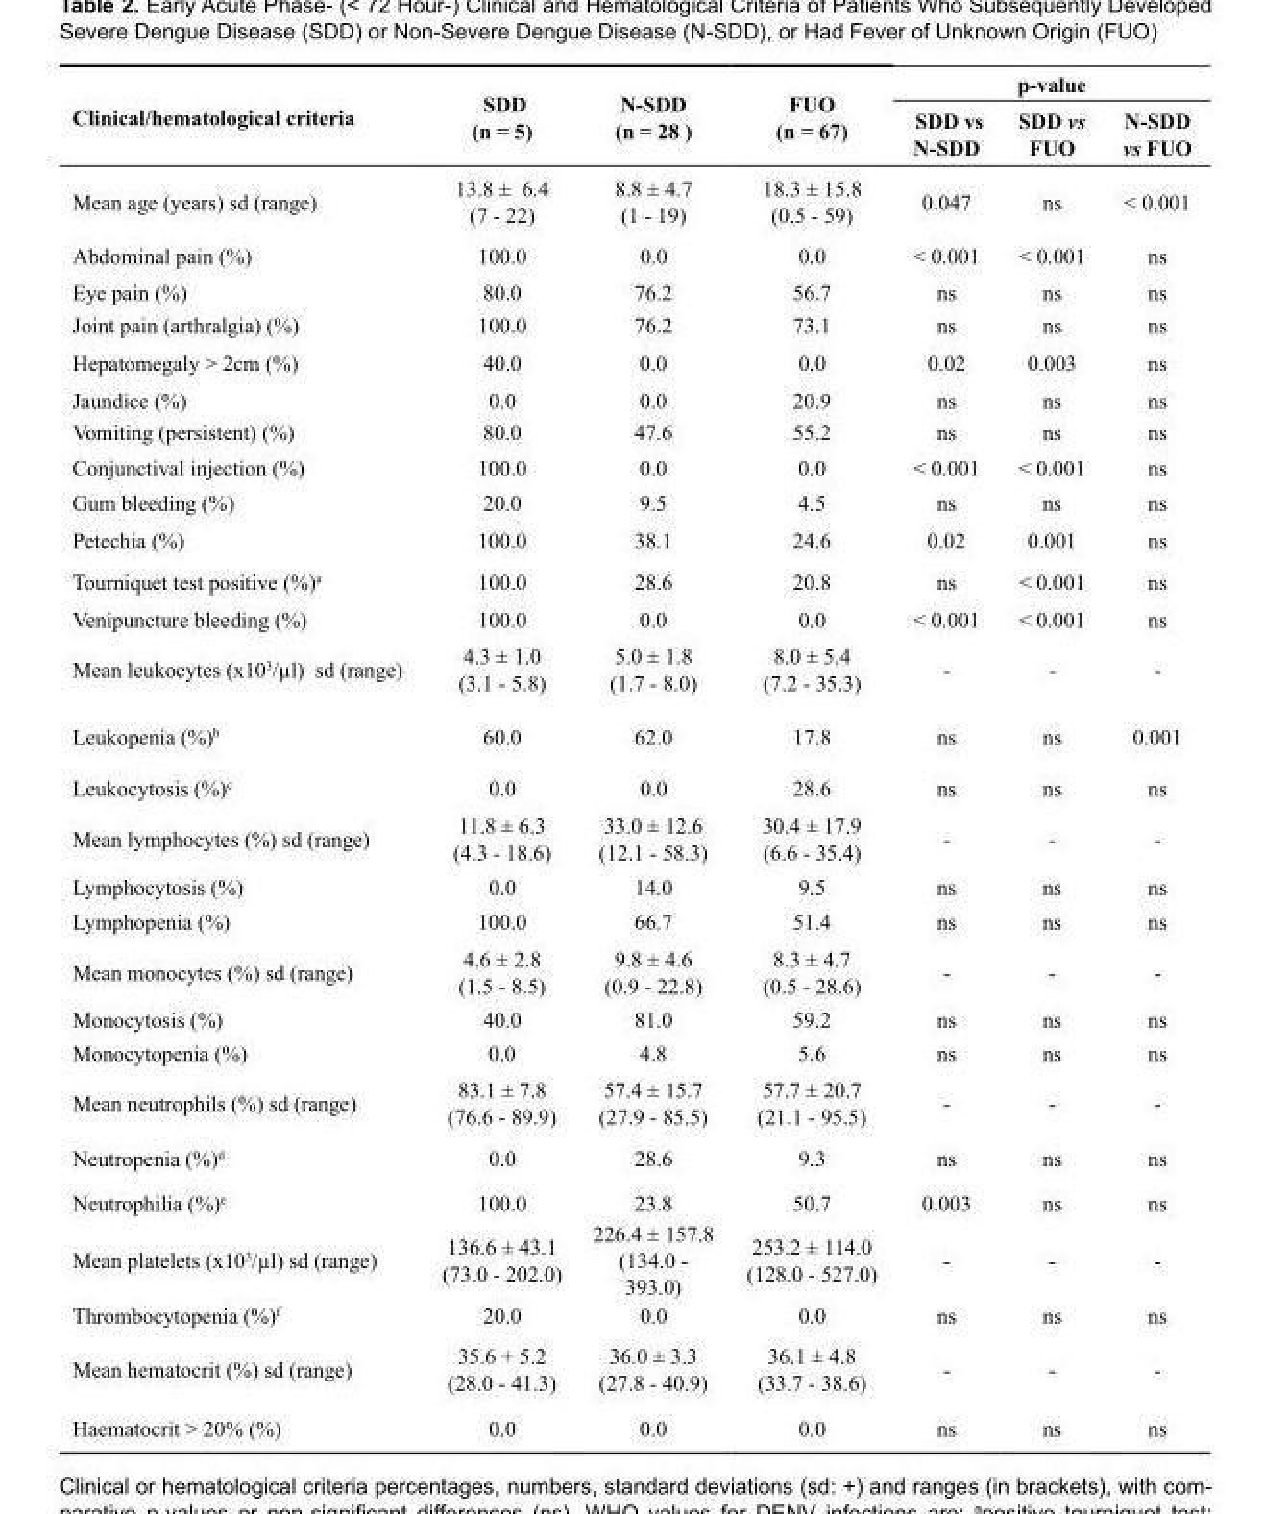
<table><thead><tr><td rowspan="2">Clinical/hematological criteria</td><td rowspan="2">SDD (n = 5)</td><td rowspan="2">N-SDD (n = 28 )</td><td rowspan="2">FUO (n = 67)</td><td colspan="3">p-value</td></tr><tr><td>SDD vs N-SDD</td><td>SDD vs FUO</td><td>N-SDD vs FUO</td></tr></thead><tbody><tr><td>Mean age (years) sd (range)</td><td>13.8 ± 6.4 (7 - 22)</td><td>8.8 ± 4.7 (1 - 19)</td><td>18.3 ± 15.8 (0.5 - 59)</td><td>0.047</td><td>ns</td><td>&lt; 0.001</td></tr><tr><td>Abdominal pain (%)</td><td>100.0</td><td>0.0</td><td>0.0</td><td>&lt; 0.001</td><td>&lt; 0.001</td><td>ns</td></tr><tr><td>Eye pain (%)</td><td>80.0</td><td>76.2</td><td>56.7</td><td>ns</td><td>ns</td><td>ns</td></tr><tr><td>Joint pain (arthralgia) (%)</td><td>100.0</td><td>76.2</td><td>73.1</td><td>ns</td><td>ns</td><td>ns</td></tr><tr><td>Hepatomegaly &gt; 2cm (%)</td><td>40.0</td><td>0.0</td><td>0.0</td><td>0.02</td><td>0.003</td><td>ns</td></tr><tr><td>Jaundice (%)</td><td>0.0</td><td>0.0</td><td>20.9</td><td>ns</td><td>ns</td><td>ns</td></tr><tr><td>Vomiting (persistent) (%)</td><td>80.0</td><td>47.6</td><td>55.2</td><td>ns</td><td>ns</td><td>ns</td></tr><tr><td>Conjunctival injection (%)</td><td>100.0</td><td>0.0</td><td>0.0</td><td>&lt; 0.001</td><td>&lt; 0.001</td><td>ns</td></tr><tr><td>Gum bleeding (%)</td><td>20.0</td><td>9.5</td><td>4.5</td><td>ns</td><td>ns</td><td>ns</td></tr><tr><td>Petechia (%)</td><td>100.0</td><td>38.1</td><td>24.6</td><td>0.02</td><td>0.001</td><td>ns</td></tr><tr><td>Tourniquet test positive (%)a</td><td>100.0</td><td>28.6</td><td>20.8</td><td>ns</td><td>&lt; 0.001</td><td>ns</td></tr><tr><td>Venipuncture bleeding (%)</td><td>100.0</td><td>0.0</td><td>0.0</td><td>&lt; 0.001</td><td>&lt; 0.001</td><td>ns</td></tr><tr><td>Mean leukocytes (x103/µl) sd (range)</td><td>4.3 ± 1.0 (3.1 - 5.8)</td><td>5.0 ± 1.8 (1.7 - 8.0)</td><td>8.0 ± 5.4 (7.2 - 35.3)</td><td>-</td><td>-</td><td>-</td></tr><tr><td>Leukopenia (%)b</td><td>60.0</td><td>62.0</td><td>17.8</td><td>ns</td><td>ns</td><td>0.001</td></tr><tr><td>Leukocytosis (%)c</td><td>0.0</td><td>0.0</td><td>28.6</td><td>ns</td><td>ns</td><td>ns</td></tr><tr><td>Mean lymphocytes (%) sd (range)</td><td>11.8 ± 6.3 (4.3 - 18.6)</td><td>33.0 ± 12.6 (12.1 - 58.3)</td><td>30.4 ± 17.9 (6.6 - 35.4)</td><td>-</td><td>-</td><td>-</td></tr><tr><td>Lymphocytosis (%)</td><td>0.0</td><td>14.0</td><td>9.5</td><td>ns</td><td>ns</td><td>ns</td></tr><tr><td>Lymphopenia (%)</td><td>100.0</td><td>66.7</td><td>51.4</td><td>ns</td><td>ns</td><td>ns</td></tr><tr><td>Mean monocytes (%) sd (range)</td><td>4.6 ± 2.8 (1.5 - 8.5)</td><td>9.8 ± 4.6 (0.9 - 22.8)</td><td>8.3 ± 4.7 (0.5 - 28.6)</td><td>-</td><td>-</td><td>-</td></tr><tr><td>Monocytosis (%)</td><td>40.0</td><td>81.0</td><td>59.2</td><td>ns</td><td>ns</td><td>ns</td></tr><tr><td>Monocytopenia (%)</td><td>0.0</td><td>4.8</td><td>5.6</td><td>ns</td><td>ns</td><td>ns</td></tr><tr><td>Mean neutrophils (%) sd (range)</td><td>83.1 ± 7.8 (76.6 - 89.9)</td><td>57.4 ± 15.7 (27.9 - 85.5)</td><td>57.7 ± 20.7 (21.1 - 95.5)</td><td>-</td><td>-</td><td>-</td></tr><tr><td>Neutropenia (%)d</td><td>0.0</td><td>28.6</td><td>9.3</td><td>ns</td><td>ns</td><td>ns</td></tr><tr><td>Neutrophilia (%)e</td><td>100.0</td><td>23.8</td><td>50.7</td><td>0.003</td><td>ns</td><td>ns</td></tr><tr><td>Mean platelets (x103/µl) sd (range)</td><td>136.6 ± 43.1 (73.0 - 202.0)</td><td>226.4 ± 157.8 (134.0 - 393.0)</td><td>253.2 ± 114.0 (128.0 - 527.0)</td><td>-</td><td>-</td><td>-</td></tr><tr><td>Thrombocytopenia (%)f</td><td>20.0</td><td>0.0</td><td>0.0</td><td>ns</td><td>ns</td><td>ns</td></tr><tr><td>Mean hematocrit (%) sd (range)</td><td>35.6 + 5.2 (28.0 - 41.3)</td><td>36.0 ± 3.3 (27.8 - 40.9)</td><td>36.1 ± 4.8 (33.7 - 38.6)</td><td>-</td><td>-</td><td>-</td></tr><tr><td>Haematocrit &gt; 20% (%)</td><td>0.0</td><td>0.0</td><td>0.0</td><td>ns</td><td>ns</td><td>ns</td></tr></tbody></table>